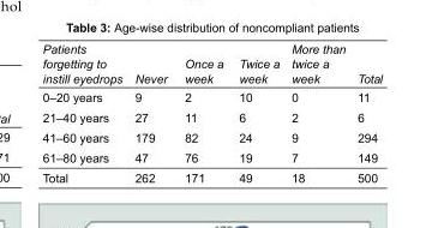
<table><tbody><tr><td>Patients forgetting to instill eyedrops</td><td>Never</td><td>Once a week</td><td>Twice a week</td><td>More than twice a week</td><td>Total</td></tr><tr><td>0–20 years</td><td>9</td><td>2</td><td>10</td><td>0</td><td>11</td></tr><tr><td>21–40 years</td><td>27</td><td>11</td><td>6</td><td>2</td><td>6</td></tr><tr><td>41–60 years</td><td>179</td><td>82</td><td>24</td><td>9</td><td>294</td></tr><tr><td>61–80 years</td><td>47</td><td>76</td><td>19</td><td>7</td><td>149</td></tr><tr><td>Total</td><td>262</td><td>171</td><td>49</td><td>18</td><td>500</td></tr></tbody></table>